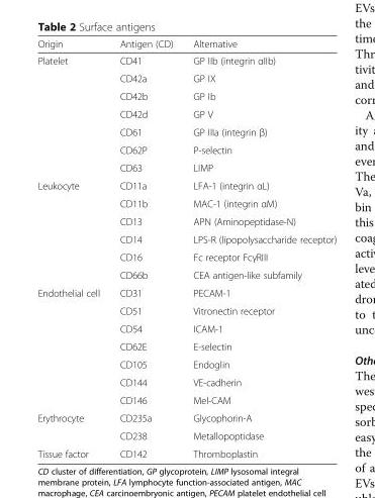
<table><thead><tr><td>Origin</td><td>Antigen (CD)</td><td>Alternative</td></tr></thead><tbody><tr><td rowspan="7">Platelet</td><td>CD41</td><td>GP IIb (integrin αIIb)</td></tr><tr><td>CD42a</td><td>GP IX</td></tr><tr><td>CD42b</td><td>GP Ib</td></tr><tr><td>CD42d</td><td>GP V</td></tr><tr><td>CD61</td><td>GP IIIa (integrin β)</td></tr><tr><td>CD62P</td><td>P-selectin</td></tr><tr><td>CD63</td><td>LIMP</td></tr><tr><td rowspan="6">Leukocyte</td><td>CD11a</td><td>LFA-1 (integrin αL)</td></tr><tr><td>CD11b</td><td>MAC-1 (integrin αM)</td></tr><tr><td>CD13</td><td>APN (Aminopeptidase-N)</td></tr><tr><td>CD14</td><td>LPS-R (lipopolysaccharide receptor)</td></tr><tr><td>CD16</td><td>Fc receptor FcγRIII</td></tr><tr><td>CD66b</td><td>CEA antigen-like subfamily</td></tr><tr><td rowspan="7">Endothelial cell</td><td>CD31</td><td>PECAM-1</td></tr><tr><td>CD51</td><td>Vitronectin receptor</td></tr><tr><td>CD54</td><td>ICAM-1</td></tr><tr><td>CD62E</td><td>E-selectin</td></tr><tr><td>CD105</td><td>Endoglin</td></tr><tr><td>CD144</td><td>VE-cadherin</td></tr><tr><td>CD146</td><td>Mel-CAM</td></tr><tr><td rowspan="2">Erythrocyte</td><td>CD235a</td><td>Glycophorin-A</td></tr><tr><td>CD238</td><td>Metallopoptidase</td></tr><tr><td>Tissue factor</td><td>CD142</td><td>Thromboplastin</td></tr></tbody></table>